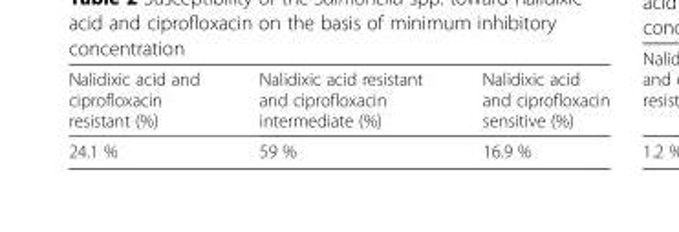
<table><thead><tr><td>Nalidixic acid and ciprofloxacin resistant (%)</td><td>Nalidixic acid resistant and ciprofloxacin intermediate (%)</td><td>Nalidixic acid and ciprofloxacin sensitive (%)</td></tr></thead><tbody><tr><td>24.1 %</td><td>59 %</td><td>16.9 %</td></tr></tbody></table>